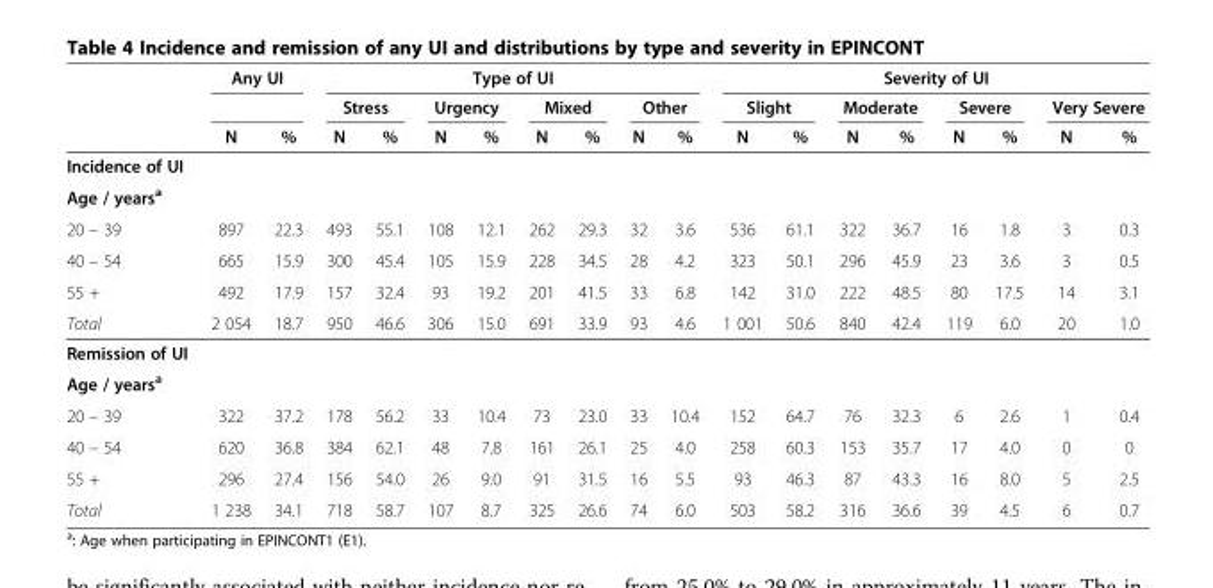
<table><thead><tr><td rowspan="3"></td><td colspan="2">Any UI</td><td colspan="8">Type of UI</td><td colspan="8">Severity of UI</td></tr><tr><td rowspan="2">N</td><td rowspan="2">%</td><td colspan="2">Stress</td><td colspan="2">Urgency</td><td colspan="2">Mixed</td><td colspan="2">Other</td><td colspan="2">Slight</td><td colspan="2">Moderate</td><td colspan="2">Severe</td><td colspan="2">Very Severe</td></tr><tr><td>N</td><td>%</td><td>N</td><td>%</td><td>N</td><td>%</td><td>N</td><td>%</td><td>N</td><td>%</td><td>N</td><td>%</td><td>N</td><td>%</td><td>N</td><td>%</td></tr></thead><tbody><tr><td colspan="19">Incidence of UI</td></tr><tr><td colspan="19">Age / years<sup>a</sup></td></tr><tr><td>20 – 39</td><td>897</td><td>22.3</td><td>493</td><td>55.1</td><td>108</td><td>12.1</td><td>262</td><td>29.3</td><td>32</td><td>3.6</td><td>536</td><td>61.1</td><td>322</td><td>36.7</td><td>16</td><td>1.8</td><td>3</td><td>0.3</td></tr><tr><td>40 – 54</td><td>665</td><td>15.9</td><td>300</td><td>45.4</td><td>105</td><td>15.9</td><td>228</td><td>34.5</td><td>28</td><td>4.2</td><td>323</td><td>50.1</td><td>296</td><td>45.9</td><td>23</td><td>3.6</td><td>3</td><td>0.5</td></tr><tr><td>55 +</td><td>492</td><td>17.9</td><td>157</td><td>32.4</td><td>93</td><td>19.2</td><td>201</td><td>41.5</td><td>33</td><td>6.8</td><td>142</td><td>31.0</td><td>222</td><td>48.5</td><td>80</td><td>17.5</td><td>14</td><td>3.1</td></tr><tr><td>Total</td><td>2 054</td><td>18.7</td><td>950</td><td>46.6</td><td>306</td><td>15.0</td><td>691</td><td>33.9</td><td>93</td><td>4.6</td><td>1 001</td><td>50.6</td><td>840</td><td>42.4</td><td>119</td><td>6.0</td><td>20</td><td>1.0</td></tr><tr><td colspan="19">Remission of UI</td></tr><tr><td colspan="19">Age / years<sup>a</sup></td></tr><tr><td>20 – 39</td><td>322</td><td>37.2</td><td>178</td><td>56.2</td><td>33</td><td>10.4</td><td>73</td><td>23.0</td><td>33</td><td>10.4</td><td>152</td><td>64.7</td><td>76</td><td>32.3</td><td>6</td><td>2.6</td><td>1</td><td>0.4</td></tr><tr><td>40 – 54</td><td>620</td><td>36.8</td><td>384</td><td>62.1</td><td>48</td><td>7.8</td><td>161</td><td>26.1</td><td>25</td><td>4.0</td><td>258</td><td>60.3</td><td>153</td><td>35.7</td><td>17</td><td>4.0</td><td>0</td><td>0</td></tr><tr><td>55 +</td><td>296</td><td>27.4</td><td>156</td><td>54.0</td><td>26</td><td>9.0</td><td>91</td><td>31.5</td><td>16</td><td>5.5</td><td>93</td><td>46.3</td><td>87</td><td>43.3</td><td>16</td><td>8.0</td><td>5</td><td>2.5</td></tr><tr><td>Total</td><td>1 238</td><td>34.1</td><td>718</td><td>58.7</td><td>107</td><td>8.7</td><td>325</td><td>26.6</td><td>74</td><td>6.0</td><td>503</td><td>58.2</td><td>316</td><td>36.6</td><td>39</td><td>4.5</td><td>6</td><td>0.7</td></tr></tbody></table>